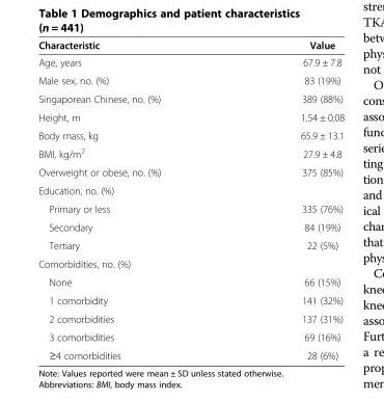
<table><thead><tr><td>Characteristic</td><td>Value</td></tr></thead><tbody><tr><td>Age, years</td><td>67.9 ± 7.8</td></tr><tr><td>Male sex, no. (%)</td><td>83 (19%)</td></tr><tr><td>Singaporean Chinese, no. (%)</td><td>389 (88%)</td></tr><tr><td>Height, m</td><td>1.54 ± 0.08</td></tr><tr><td>Body mass, kg</td><td>65.9 ± 13.1</td></tr><tr><td>BMI, kg/m<sup>2</sup></td><td>27.9 ± 4.8</td></tr><tr><td>Overweight or obese, no. (%)</td><td>375 (85%)</td></tr><tr><td colspan="2">Education, no. (%)</td></tr><tr><td>Primary or less</td><td>335 (76%)</td></tr><tr><td>Secondary</td><td>84 (19%)</td></tr><tr><td>Tertiary</td><td>22 (5%)</td></tr><tr><td colspan="2">Comorbidities, no. (%)</td></tr><tr><td>None</td><td>66 (15%)</td></tr><tr><td>1 comorbidity</td><td>141 (32%)</td></tr><tr><td>2 comorbidities</td><td>137 (31%)</td></tr><tr><td>3 comorbidities</td><td>69 (16%)</td></tr><tr><td>≥4 comorbidities</td><td>28 (6%)</td></tr></tbody></table>